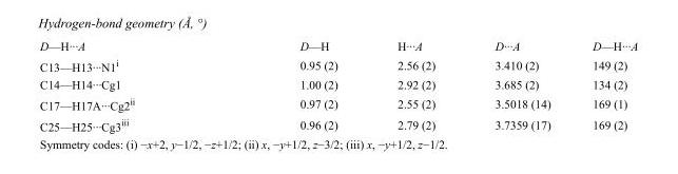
<table><tbody><tr><td>D—H···A</td><td>D—H</td><td>H···A</td><td>D···A</td><td>D—H···A</td></tr><tr><td>C13—H13···N1<sup>i</sup></td><td>0.95 (2)</td><td>2.56 (2)</td><td>3.410 (2)</td><td>149 (2)</td></tr><tr><td>C14—H14···Cg1</td><td>1.00 (2)</td><td>2.92 (2)</td><td>3.685 (2)</td><td>134 (2)</td></tr><tr><td>C17—H17A···Cg2<sup>ii</sup></td><td>0.97 (2)</td><td>2.55 (2)</td><td>3.5018 (14)</td><td>169 (1)</td></tr><tr><td>C25—H25···Cg3<sup>iii</sup></td><td>0.96 (2)</td><td>2.79 (2)</td><td>3.7359 (17)</td><td>169 (2)</td></tr></tbody></table>